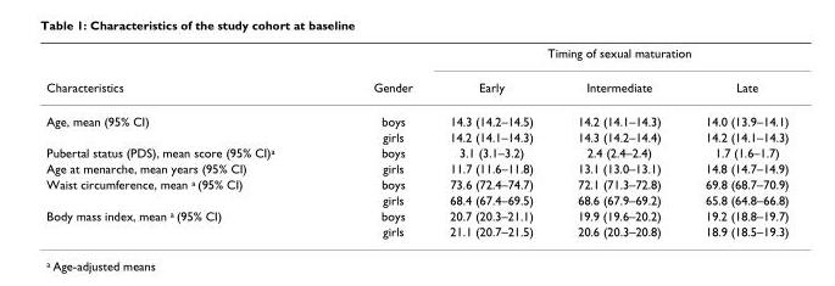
<table><thead><tr><td rowspan="2">Characteristics</td><td rowspan="2">Gender</td><td colspan="3">Timing of sexual maturation</td></tr><tr><td>Early</td><td>Intermediate</td><td>Late</td></tr></thead><tbody><tr><td rowspan="2">Age, mean (95% CI)</td><td>boys</td><td>14.3 (14.2–14.5)</td><td>14.2 (14.1–14.3)</td><td>14.0 (13.9–14.1)</td></tr><tr><td>girls</td><td>14.2 (14.1–14.3)</td><td>14.3 (14.2–14.4)</td><td>14.2 (14.1–14.3)</td></tr><tr><td>Pubertal status (PDS), mean score (95% CI)<sup>a</sup></td><td>boys</td><td>3.1 (3.1–3.2)</td><td>2.4 (2.4–2.4)</td><td>1.7 (1.6–1.7)</td></tr><tr><td>Age at menarche, mean years (95% CI)</td><td>girls</td><td>11.7 (11.6–11.8)</td><td>13.1 (13.0–13.1)</td><td>14.8 (14.7–14.9)</td></tr><tr><td rowspan="2">Waist circumference, mean <sup>a</sup> (95% CI)</td><td>boys</td><td>73.6 (72.4–74.7)</td><td>72.1 (71.3–72.8)</td><td>69.8 (68.7–70.9)</td></tr><tr><td>girls</td><td>68.4 (67.4–69.5)</td><td>68.6 (67.9–69.2)</td><td>65.8 (64.8–66.8)</td></tr><tr><td rowspan="2">Body mass index, mean <sup>a</sup> (95% CI)</td><td>boys</td><td>20.7 (20.3–21.1)</td><td>19.9 (19.6–20.2)</td><td>19.2 (18.8–19.7)</td></tr><tr><td>girls</td><td>21.1 (20.7–21.5)</td><td>20.6 (20.3–20.8)</td><td>18.9 (18.5–19.3)</td></tr></tbody></table>